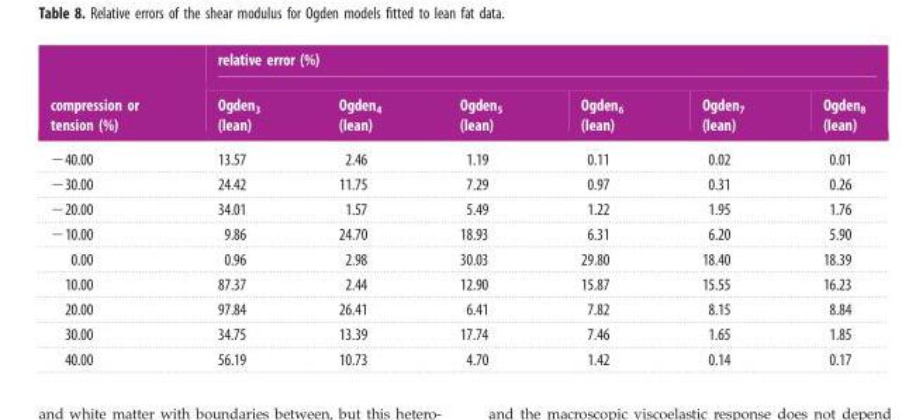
<table><thead><tr><td rowspan="2">compression or tension (%)</td><td colspan="6">relative error (%)</td></tr><tr><td>Ogden<sub>3</sub> (lean)</td><td>Ogden<sub>4</sub> (lean)</td><td>Ogden<sub>5</sub> (lean)</td><td>Ogden<sub>6</sub> (lean)</td><td>Ogden<sub>7</sub> (lean)</td><td>Ogden<sub>8</sub> (lean)</td></tr></thead><tbody><tr><td>−40.00</td><td>13.57</td><td>2.46</td><td>1.19</td><td>0.11</td><td>0.02</td><td>0.01</td></tr><tr><td>−30.00</td><td>24.42</td><td>11.75</td><td>7.29</td><td>0.97</td><td>0.31</td><td>0.26</td></tr><tr><td>−20.00</td><td>34.01</td><td>1.57</td><td>5.49</td><td>1.22</td><td>1.95</td><td>1.76</td></tr><tr><td>−10.00</td><td>9.86</td><td>24.70</td><td>18.93</td><td>6.31</td><td>6.20</td><td>5.90</td></tr><tr><td>0.00</td><td>0.96</td><td>2.98</td><td>30.03</td><td>29.80</td><td>18.40</td><td>18.39</td></tr><tr><td>10.00</td><td>87.37</td><td>2.44</td><td>12.90</td><td>15.87</td><td>15.55</td><td>16.23</td></tr><tr><td>20.00</td><td>97.84</td><td>26.41</td><td>6.41</td><td>7.82</td><td>8.15</td><td>8.84</td></tr><tr><td>30.00</td><td>34.75</td><td>13.39</td><td>17.74</td><td>7.46</td><td>1.65</td><td>1.85</td></tr><tr><td>40.00</td><td>56.19</td><td>10.73</td><td>4.70</td><td>1.42</td><td>0.14</td><td>0.17</td></tr></tbody></table>